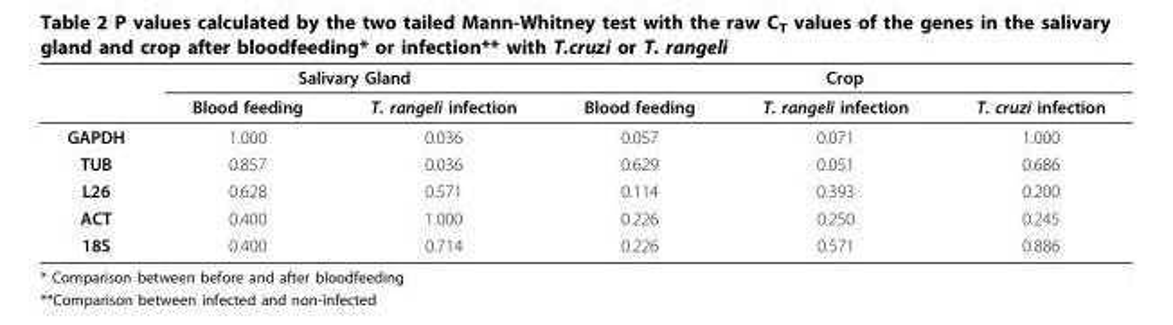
<table><thead><tr><td rowspan="2"></td><td colspan="2">Salivary Gland</td><td colspan="3">Crop</td></tr><tr><td>Blood feeding</td><td>T. rangeli infection</td><td>Blood feeding</td><td>T. rangeli infection</td><td>T. cruzi infection</td></tr></thead><tbody><tr><td>GAPDH</td><td>1.000</td><td>0.036</td><td>0.057</td><td>0.071</td><td>1.000</td></tr><tr><td>TUB</td><td>0.857</td><td>0.036</td><td>0.629</td><td>0.051</td><td>0.686</td></tr><tr><td>L26</td><td>0.628</td><td>0.571</td><td>0.114</td><td>0.393</td><td>0.200</td></tr><tr><td>ACT</td><td>0.400</td><td>1.000</td><td>0.226</td><td>0.250</td><td>0.245</td></tr><tr><td>18S</td><td>0.400</td><td>0.714</td><td>0.226</td><td>0.571</td><td>0.886</td></tr></tbody></table>